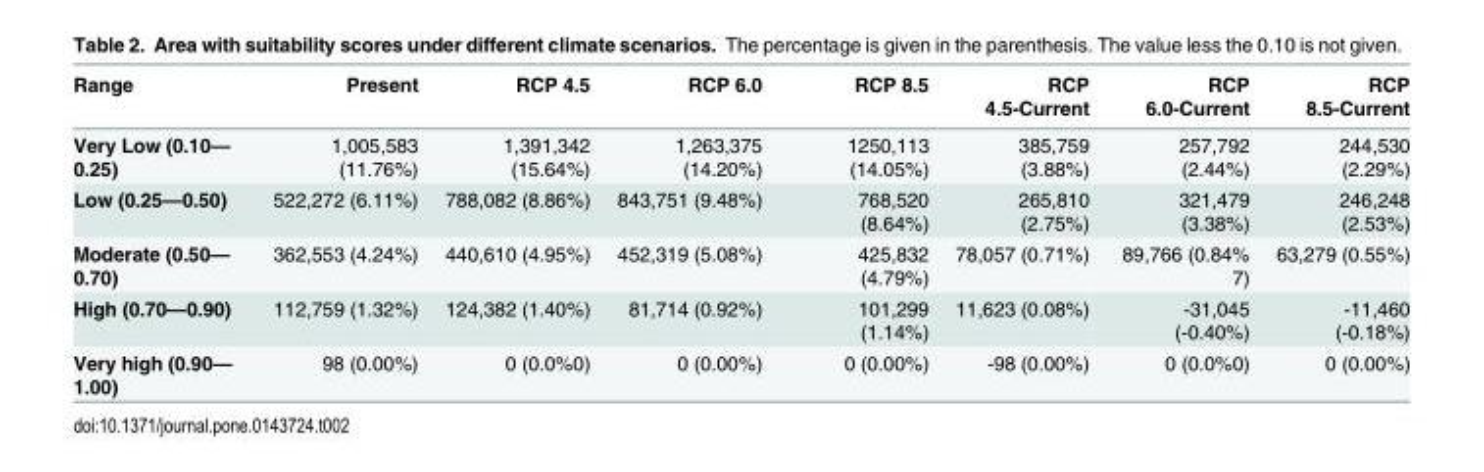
<table><thead><tr><td>Range</td><td>Present</td><td>RCP 4.5</td><td>RCP 6.0</td><td>RCP 8.5</td><td>RCP 4.5-Current</td><td>RCP 6.0-Current</td><td>RCP 8.5-Current</td></tr></thead><tbody><tr><td>Very Low (0.10— 0.25)</td><td>1,005,583 (11.76%)</td><td>1,391,342 (15.64%)</td><td>1,263,375 (14.20%)</td><td>1250,113 (14.05%)</td><td>385,759 (3.88%)</td><td>257,792 (2.44%)</td><td>244,530 (2.29%)</td></tr><tr><td>Low (0.25—0.50)</td><td>522,272 (6.11%)</td><td>788,082 (8.86%)</td><td>843,751 (9.48%)</td><td>768,520 (8.64%)</td><td>265,810 (2.75%)</td><td>321,479 (3.38%)</td><td>246,248 (2.53%)</td></tr><tr><td>Moderate (0.50— 0.70)</td><td>362,553 (4.24%)</td><td>440,610 (4.95%)</td><td>452,319 (5.08%)</td><td>425,832 (4.79%)</td><td>78,057 (0.71%)</td><td>89,766 (0.84% 7)</td><td>63,279 (0.55%)</td></tr><tr><td>High (0.70—0.90)</td><td>112,759 (1.32%)</td><td>124,382 (1.40%)</td><td>81,714 (0.92%)</td><td>101,299 (1.14%)</td><td>11,623 (0.08%)</td><td>-31,045 (-0.40%)</td><td>-11,460 (-0.18%)</td></tr><tr><td>Very high (0.90— 1.00)</td><td>98 (0.00%)</td><td>0 (0.0%0)</td><td>0 (0.00%)</td><td>0 (0.00%)</td><td>-98 (0.00%)</td><td>0 (0.0%0)</td><td>0 (0.00%)</td></tr></tbody></table>